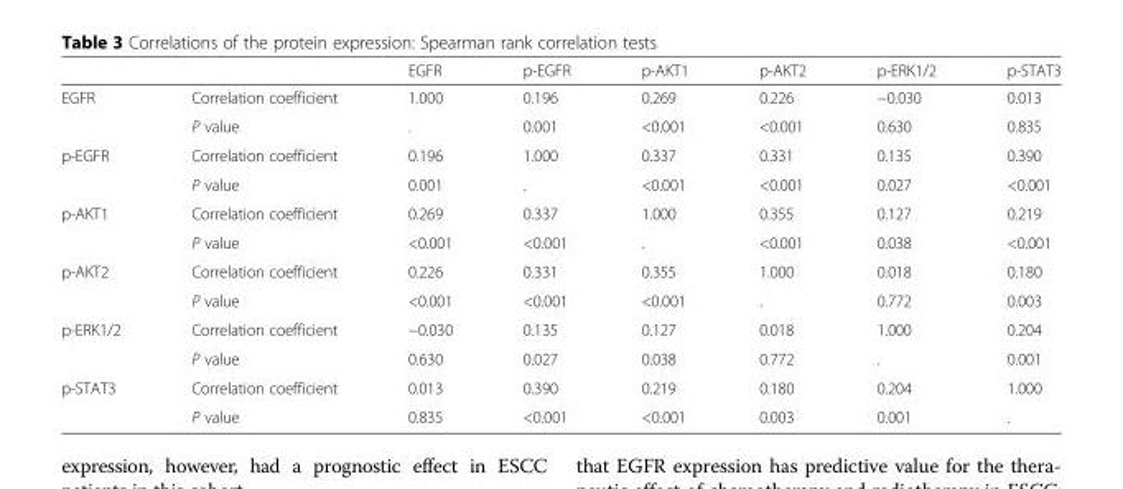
<table><thead><tr><td></td><td></td><td>EGFR</td><td>p-EGFR</td><td>p-AKT1</td><td>p-AKT2</td><td>p-ERK1/2</td><td>p-STAT3</td></tr></thead><tbody><tr><td rowspan="2">EGFR</td><td>Correlation coefficient</td><td>1.000</td><td>0.196</td><td>0.269</td><td>0.226</td><td>−0.030</td><td>0.013</td></tr><tr><td>P value</td><td>.</td><td>0.001</td><td>&lt;0.001</td><td>&lt;0.001</td><td>0.630</td><td>0.835</td></tr><tr><td rowspan="2">p-EGFR</td><td>Correlation coefficient</td><td>0.196</td><td>1.000</td><td>0.337</td><td>0.331</td><td>0.135</td><td>0.390</td></tr><tr><td>P value</td><td>0.001</td><td>.</td><td>&lt;0.001</td><td>&lt;0.001</td><td>0.027</td><td>&lt;0.001</td></tr><tr><td rowspan="2">p-AKT1</td><td>Correlation coefficient</td><td>0.269</td><td>0.337</td><td>1.000</td><td>0.355</td><td>0.127</td><td>0.219</td></tr><tr><td>P value</td><td>&lt;0.001</td><td>&lt;0.001</td><td>.</td><td>&lt;0.001</td><td>0.038</td><td>&lt;0.001</td></tr><tr><td rowspan="2">p-AKT2</td><td>Correlation coefficient</td><td>0.226</td><td>0.331</td><td>0.355</td><td>1.000</td><td>0.018</td><td>0.180</td></tr><tr><td>P value</td><td>&lt;0.001</td><td>&lt;0.001</td><td>&lt;0.001</td><td>.</td><td>0.772</td><td>0.003</td></tr><tr><td rowspan="2">p-ERK1/2</td><td>Correlation coefficient</td><td>−0.030</td><td>0.135</td><td>0.127</td><td>0.018</td><td>1.000</td><td>0.204</td></tr><tr><td>P value</td><td>0.630</td><td>0.027</td><td>0.038</td><td>0.772</td><td>.</td><td>0.001</td></tr><tr><td rowspan="2">p-STAT3</td><td>Correlation coefficient</td><td>0.013</td><td>0.390</td><td>0.219</td><td>0.180</td><td>0.204</td><td>1.000</td></tr><tr><td>P value</td><td>0.835</td><td>&lt;0.001</td><td>&lt;0.001</td><td>0.003</td><td>0.001</td><td>.</td></tr></tbody></table>